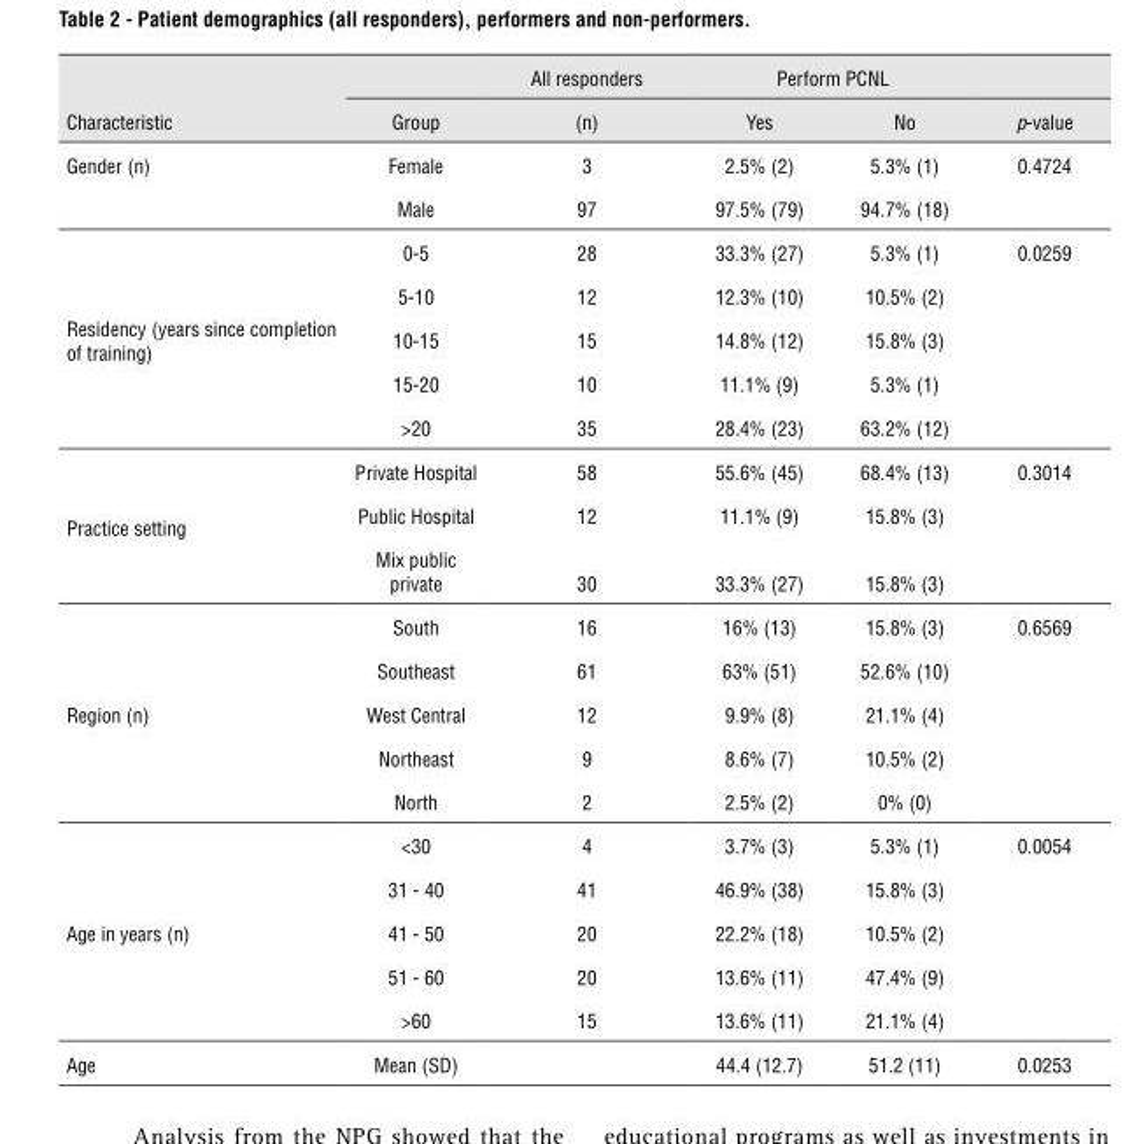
<table><thead><tr><td rowspan="2">Characteristic</td><td rowspan="2">Group</td><td rowspan="2">All responders (n)</td><td colspan="2">Perform PCNL</td><td rowspan="2">p-value</td></tr><tr><td>Yes</td><td>No</td></tr></thead><tbody><tr><td rowspan="2">Gender (n)</td><td>Female</td><td>3</td><td>2.5% (2)</td><td>5.3% (1)</td><td>0.4724</td></tr><tr><td>Male</td><td>97</td><td>97.5% (79)</td><td>94.7% (18)</td><td></td></tr><tr><td rowspan="5">Residency (years since completion of training)</td><td>0-5</td><td>28</td><td>33.3% (27)</td><td>5.3% (1)</td><td>0.0259</td></tr><tr><td>5-10</td><td>12</td><td>12.3% (10)</td><td>10.5% (2)</td><td></td></tr><tr><td>10-15</td><td>15</td><td>14.8% (12)</td><td>15.8% (3)</td><td></td></tr><tr><td>15-20</td><td>10</td><td>11.1% (9)</td><td>5.3% (1)</td><td></td></tr><tr><td>&gt;20</td><td>35</td><td>28.4% (23)</td><td>63.2% (12)</td><td></td></tr><tr><td rowspan="3">Practice setting</td><td>Private Hospital</td><td>58</td><td>55.6% (45)</td><td>68.4% (13)</td><td>0.3014</td></tr><tr><td>Public Hospital</td><td>12</td><td>11.1% (9)</td><td>15.8% (3)</td><td></td></tr><tr><td>Mix public private</td><td>30</td><td>33.3% (27)</td><td>15.8% (3)</td><td></td></tr><tr><td rowspan="5">Region (n)</td><td>South</td><td>16</td><td>16% (13)</td><td>15.8% (3)</td><td>0.6569</td></tr><tr><td>Southeast</td><td>61</td><td>63% (51)</td><td>52.6% (10)</td><td></td></tr><tr><td>West Central</td><td>12</td><td>9.9% (8)</td><td>21.1% (4)</td><td></td></tr><tr><td>Northeast</td><td>9</td><td>8.6% (7)</td><td>10.5% (2)</td><td></td></tr><tr><td>North</td><td>2</td><td>2.5% (2)</td><td>0% (0)</td><td></td></tr><tr><td rowspan="5">Age in years (n)</td><td>&lt;30</td><td>4</td><td>3.7% (3)</td><td>5.3% (1)</td><td>0.0054</td></tr><tr><td>31 - 40</td><td>41</td><td>46.9% (38)</td><td>15.8% (3)</td><td></td></tr><tr><td>41 - 50</td><td>20</td><td>22.2% (18)</td><td>10.5% (2)</td><td></td></tr><tr><td>51 - 60</td><td>20</td><td>13.6% (11)</td><td>47.4% (9)</td><td></td></tr><tr><td>&gt;60</td><td>15</td><td>13.6% (11)</td><td>21.1% (4)</td><td></td></tr><tr><td>Age</td><td>Mean (SD)</td><td></td><td>44.4 (12.7)</td><td>51.2 (11)</td><td>0.0253</td></tr></tbody></table>